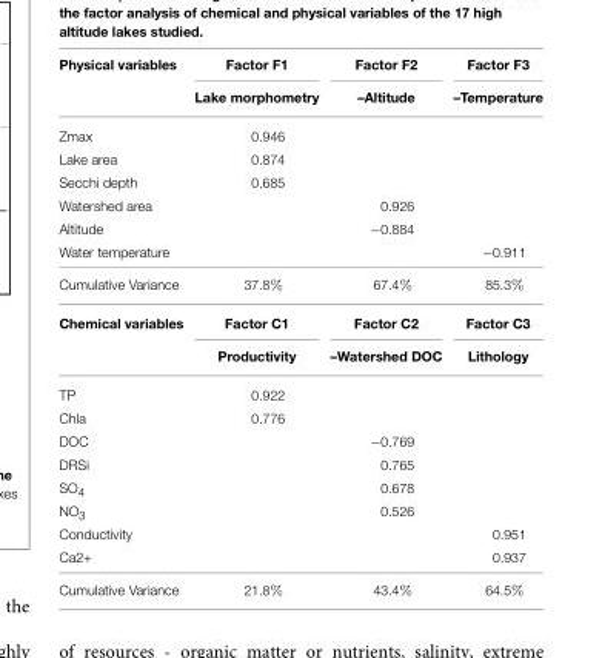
<table><thead><tr><td rowspan="2">Physical variables</td><td rowspan="2">Factor F1 Lake morphometry</td><td rowspan="2">Factor F2 –Altitude</td><td rowspan="2">Factor F3 –Temperature</td></tr><tr></tr></thead><tbody><tr><td>Zmax</td><td>0.946</td><td></td><td></td></tr><tr><td>Lake area</td><td>0.874</td><td></td><td></td></tr><tr><td>Secchi depth</td><td>0.685</td><td></td><td></td></tr><tr><td>Watershed area</td><td></td><td>0.926</td><td></td></tr><tr><td>Altitude</td><td></td><td>−0.884</td><td></td></tr><tr><td>Water temperature</td><td></td><td></td><td>−0.911</td></tr><tr><td>Cumulative Variance</td><td>37.8%</td><td>67.4%</td><td>85.3%</td></tr><tr><td rowspan="2">Chemical variables</td><td>Factor C1</td><td>Factor C2</td><td>Factor C3</td></tr><tr><td>Productivity</td><td>–Watershed DOC</td><td>Lithology</td></tr><tr><td>TP</td><td>0.922</td><td></td><td></td></tr><tr><td>Chla</td><td>0.776</td><td></td><td></td></tr><tr><td>DOC</td><td></td><td>−0.769</td><td></td></tr><tr><td>DRSi</td><td></td><td>0.765</td><td></td></tr><tr><td>SO<sub>4</sub></td><td></td><td>0.678</td><td></td></tr><tr><td>NO<sub>3</sub></td><td></td><td>0.526</td><td></td></tr><tr><td>Conductivity</td><td></td><td></td><td>0.951</td></tr><tr><td>Ca2+</td><td></td><td></td><td>0.937</td></tr><tr><td>Cumulative Variance</td><td>21.8%</td><td>43.4%</td><td>64.5%</td></tr></tbody></table>